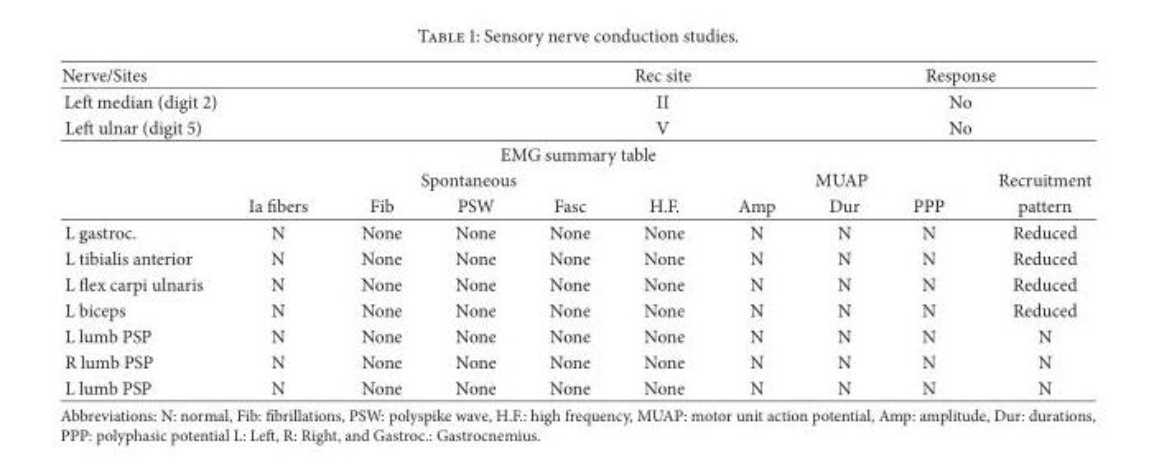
<table><thead><tr><td colspan="4">Nerve/Sites</td><td colspan="3">Rec site</td><td colspan="3">Response</td></tr></thead><tbody><tr><td colspan="4">Left median (digit 2)</td><td colspan="3">II</td><td colspan="3">No</td></tr><tr><td colspan="4">Left ulnar (digit 5)</td><td colspan="3">V</td><td colspan="3">No</td></tr><tr><td colspan="10">EMG summary table</td></tr><tr><td></td><td colspan="5">Spontaneous</td><td colspan="3">MUAP</td><td>Recruitment</td></tr><tr><td></td><td>Ia fibers</td><td>Fib</td><td>PSW</td><td>Fasc</td><td>H.F.</td><td>Amp</td><td>Dur</td><td>PPP</td><td>pattern</td></tr><tr><td>L gastroc.</td><td>N</td><td>None</td><td>None</td><td>None</td><td>None</td><td>N</td><td>N</td><td>N</td><td>Reduced</td></tr><tr><td>L tibialis anterior</td><td>N</td><td>None</td><td>None</td><td>None</td><td>None</td><td>N</td><td>N</td><td>N</td><td>Reduced</td></tr><tr><td>L flex carpi ulnaris</td><td>N</td><td>None</td><td>None</td><td>None</td><td>None</td><td>N</td><td>N</td><td>N</td><td>Reduced</td></tr><tr><td>L biceps</td><td>N</td><td>None</td><td>None</td><td>None</td><td>None</td><td>N</td><td>N</td><td>N</td><td>Reduced</td></tr><tr><td>L lumb PSP</td><td>N</td><td>None</td><td>None</td><td>None</td><td>None</td><td>N</td><td>N</td><td>N</td><td>N</td></tr><tr><td>R lumb PSP</td><td>N</td><td>None</td><td>None</td><td>None</td><td>None</td><td>N</td><td>N</td><td>N</td><td>N</td></tr><tr><td>L lumb PSP</td><td>N</td><td>None</td><td>None</td><td>None</td><td>None</td><td>N</td><td>N</td><td>N</td><td>N</td></tr></tbody></table>